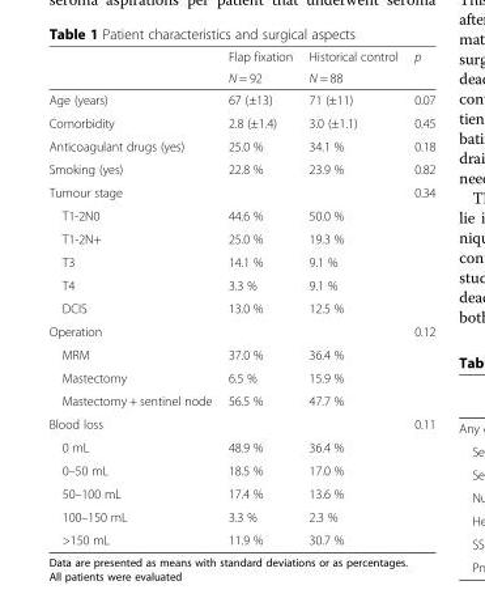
<table><thead><tr><td rowspan="2"></td><td rowspan="2">Flap fixation N = 92</td><td rowspan="2">Historical control N = 88</td><td rowspan="2">p</td></tr><tr></tr></thead><tbody><tr><td>Age (years)</td><td>67 (±13)</td><td>71 (±11)</td><td>0.07</td></tr><tr><td>Comorbidity</td><td>2.8 (±1.4)</td><td>3.0 (±1.1)</td><td>0.45</td></tr><tr><td>Anticoagulant drugs (yes)</td><td>25.0 %</td><td>34.1 %</td><td>0.18</td></tr><tr><td>Smoking (yes)</td><td>22.8 %</td><td>23.9 %</td><td>0.82</td></tr><tr><td>Tumour stage</td><td></td><td></td><td>0.34</td></tr><tr><td>T1-2N0</td><td>44.6 %</td><td>50.0 %</td><td></td></tr><tr><td>T1-2N+</td><td>25.0 %</td><td>19.3 %</td><td></td></tr><tr><td>T3</td><td>14.1 %</td><td>9.1 %</td><td></td></tr><tr><td>T4</td><td>3.3 %</td><td>9.1 %</td><td></td></tr><tr><td>DCIS</td><td>13.0 %</td><td>12.5 %</td><td></td></tr><tr><td>Operation</td><td></td><td></td><td>0.12</td></tr><tr><td>MRM</td><td>37.0 %</td><td>36.4 %</td><td></td></tr><tr><td>Mastectomy</td><td>6.5 %</td><td>15.9 %</td><td></td></tr><tr><td>Mastectomy + sentinel node</td><td>56.5 %</td><td>47.7 %</td><td></td></tr><tr><td>Blood loss</td><td></td><td></td><td>0.11</td></tr><tr><td>0 mL</td><td>48.9 %</td><td>36.4 %</td><td></td></tr><tr><td>0–50 mL</td><td>18.5 %</td><td>17.0 %</td><td></td></tr><tr><td>50–100 mL</td><td>17.4 %</td><td>13.6 %</td><td></td></tr><tr><td>100–150 mL</td><td>3.3 %</td><td>2.3 %</td><td></td></tr><tr><td>&gt;150 mL</td><td>11.9 %</td><td>30.7 %</td><td></td></tr></tbody></table>